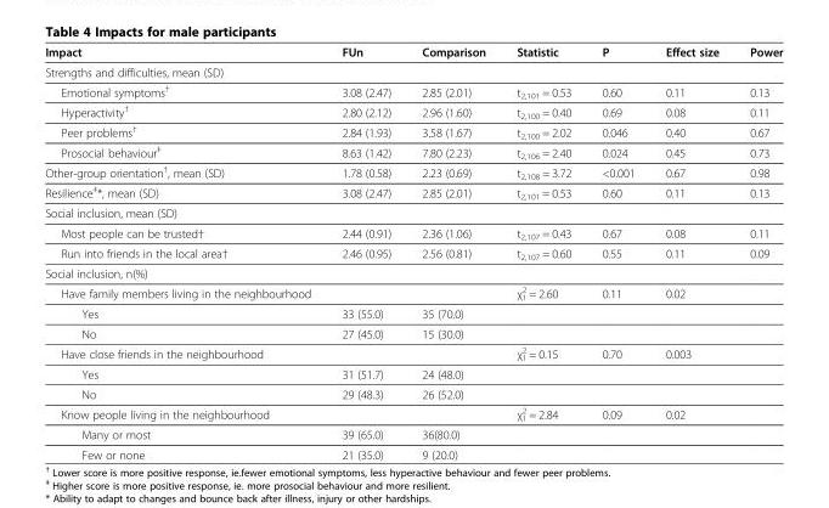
<table><thead><tr><td>Impact</td><td>FUn</td><td>Comparison</td><td>Statistic</td><td>P</td><td>Effect size</td><td>Power</td></tr></thead><tbody><tr><td colspan="7">Strengths and difficulties, mean (SD)</td></tr><tr><td>Emotional symptoms<sup>†</sup></td><td>3.08 (2.47)</td><td>2.85 (2.01)</td><td>t<sub>2,101</sub> = 0.53</td><td>0.60</td><td>0.11</td><td>0.13</td></tr><tr><td>Hyperactivity<sup>†</sup></td><td>2.80 (2.12)</td><td>2.96 (1.60)</td><td>t<sub>2,100</sub> = 0.40</td><td>0.69</td><td>0.08</td><td>0.11</td></tr><tr><td>Peer problems<sup>†</sup></td><td>2.84 (1.93)</td><td>3.58 (1.67)</td><td>t<sub>2,100</sub> = 2.02</td><td>0.046</td><td>0.40</td><td>0.67</td></tr><tr><td>Prosocial behaviour<sup>‡</sup></td><td>8.63 (1.42)</td><td>7.80 (2.23)</td><td>t<sub>2,106</sub> = 2.40</td><td>0.024</td><td>0.45</td><td>0.73</td></tr><tr><td>Other-group orientation<sup>†</sup>, mean (SD)</td><td>1.78 (0.58)</td><td>2.23 (0.69)</td><td>t<sub>2,108</sub> = 3.72</td><td>&lt;0.001</td><td>0.67</td><td>0.98</td></tr><tr><td>Resilience<sup>‡</sup>*, mean (SD)</td><td>3.08 (2.47)</td><td>2.85 (2.01)</td><td>t<sub>2,101</sub> = 0.53</td><td>0.60</td><td>0.11</td><td>0.13</td></tr><tr><td colspan="7">Social inclusion, mean (SD)</td></tr><tr><td>Most people can be trusted†</td><td>2.44 (0.91)</td><td>2.36 (1.06)</td><td>t<sub>2,107</sub> = 0.43</td><td>0.67</td><td>0.08</td><td>0.11</td></tr><tr><td>Run into friends in the local area†</td><td>2.46 (0.95)</td><td>2.56 (0.81)</td><td>t<sub>2,107</sub> = 0.60</td><td>0.55</td><td>0.11</td><td>0.09</td></tr><tr><td colspan="7">Social inclusion, n(%)</td></tr><tr><td>Have family members living in the neighbourhood</td><td></td><td></td><td>χ<sup>2</sup> <sub>1</sub> = 2.60</td><td>0.11</td><td>0.02</td><td></td></tr><tr><td>Yes</td><td>33 (55.0)</td><td>35 (70.0)</td><td></td><td></td><td></td><td></td></tr><tr><td>No</td><td>27 (45.0)</td><td>15 (30.0)</td><td></td><td></td><td></td><td></td></tr><tr><td>Have close friends in the neighbourhood</td><td></td><td></td><td>χ<sup>2</sup> <sub>1</sub> = 0.15</td><td>0.70</td><td>0.003</td><td></td></tr><tr><td>Yes</td><td>31 (51.7)</td><td>24 (48.0)</td><td></td><td></td><td></td><td></td></tr><tr><td>No</td><td>29 (48.3)</td><td>26 (52.0)</td><td></td><td></td><td></td><td></td></tr><tr><td>Know people living in the neighbourhood</td><td></td><td></td><td>χ<sup>2</sup> <sub>1</sub> = 2.84</td><td>0.09</td><td>0.02</td><td></td></tr><tr><td>Many or most</td><td>39 (65.0)</td><td>36(80.0)</td><td></td><td></td><td></td><td></td></tr><tr><td>Few or none</td><td>21 (35.0)</td><td>9 (20.0)</td><td></td><td></td><td></td><td></td></tr></tbody></table>